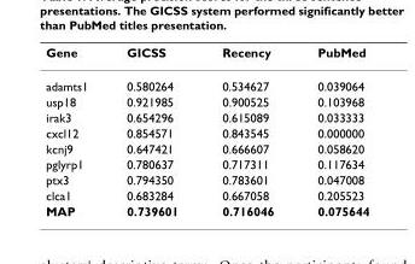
<table><thead><tr><td>Gene</td><td>GICSS</td><td>Recency</td><td>PubMed</td></tr></thead><tbody><tr><td>adamts1</td><td>0.580264</td><td>0.534627</td><td>0.039064</td></tr><tr><td>usp18</td><td>0.921985</td><td>0.900525</td><td>0.103968</td></tr><tr><td>irak3</td><td>0.654296</td><td>0.615089</td><td>0.033333</td></tr><tr><td>cxcl12</td><td>0.854571</td><td>0.843545</td><td>0.000000</td></tr><tr><td>kcnj9</td><td>0.647421</td><td>0.666607</td><td>0.058620</td></tr><tr><td>pglyrp1</td><td>0.780637</td><td>0.717311</td><td>0.117634</td></tr><tr><td>ptx3</td><td>0.794350</td><td>0.783601</td><td>0.047008</td></tr><tr><td>clca1</td><td>0.683284</td><td>0.667058</td><td>0.205523</td></tr><tr><td>MAP</td><td>0.739601</td><td>0.716046</td><td>0.075644</td></tr></tbody></table>